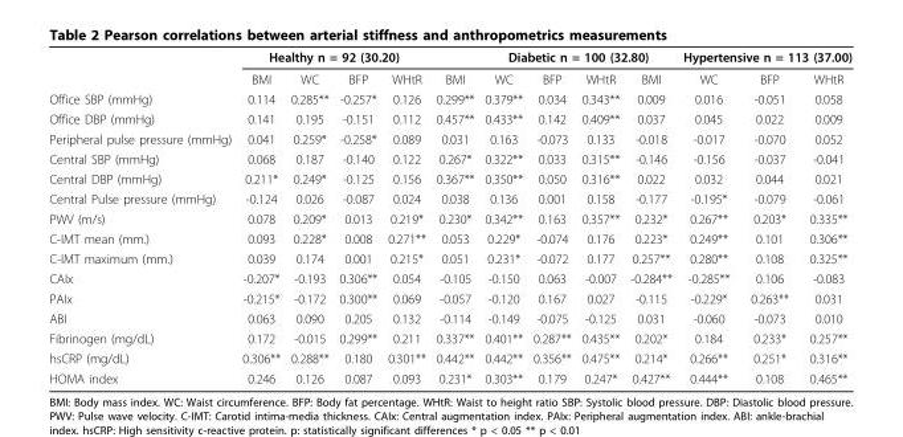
<table><thead><tr><td rowspan="2"></td><td colspan="4">Healthy n = 92 (30.20)</td><td rowspan="2">BMI</td><td colspan="4">Diabetic n = 100 (32.80)</td><td colspan="3">Hypertensive n = 113 (37.00)</td></tr><tr><td>BMI</td><td>WC</td><td>BFP</td><td>WHtR</td><td>WC</td><td>BFP</td><td>WHtR</td><td>BMI</td><td>WC</td><td>BFP</td><td>WHtR</td></tr></thead><tbody><tr><td>Office SBP (mmHg)</td><td>0.114</td><td>0.285**</td><td>-0.257*</td><td>0.126</td><td>0.299**</td><td>0.379**</td><td>0.034</td><td>0.343**</td><td>0.009</td><td>0.016</td><td>-0.051</td><td>0.058</td></tr><tr><td>Office DBP (mmHg)</td><td>0.141</td><td>0.195</td><td>-0.151</td><td>0.112</td><td>0.457**</td><td>0.433**</td><td>0.142</td><td>0.409**</td><td>0.037</td><td>0.045</td><td>0.022</td><td>0.009</td></tr><tr><td>Peripheral pulse pressure (mmHg)</td><td>0.041</td><td>0.259*</td><td>-0.258*</td><td>0.089</td><td>0.031</td><td>0.163</td><td>-0.073</td><td>0.133</td><td>-0.018</td><td>-0.017</td><td>-0.070</td><td>0.052</td></tr><tr><td>Central SBP (mmHg)</td><td>0.068</td><td>0.187</td><td>-0.140</td><td>0.122</td><td>0.267*</td><td>0.322**</td><td>0.033</td><td>0.315**</td><td>-0.146</td><td>-0.156</td><td>-0.037</td><td>-0.041</td></tr><tr><td>Central DBP (mmHg)</td><td>0.211*</td><td>0.249*</td><td>-0.125</td><td>0.156</td><td>0.367**</td><td>0.350**</td><td>0.050</td><td>0.316**</td><td>0.022</td><td>0.032</td><td>0.044</td><td>0.021</td></tr><tr><td>Central Pulse pressure (mmHg)</td><td>-0.124</td><td>0.026</td><td>-0.087</td><td>0.024</td><td>0.038</td><td>0.136</td><td>0.001</td><td>0.158</td><td>-0.177</td><td>-0.195*</td><td>-0.079</td><td>-0.061</td></tr><tr><td>PWV (m/s)</td><td>0.078</td><td>0.209*</td><td>0.013</td><td>0.219*</td><td>0.230*</td><td>0.342**</td><td>0.163</td><td>0.357**</td><td>0.232*</td><td>0.267**</td><td>0.203*</td><td>0.335**</td></tr><tr><td>C-IMT mean (mm.)</td><td>0.093</td><td>0.228*</td><td>0.008</td><td>0.271**</td><td>0.053</td><td>0.229*</td><td>-0.074</td><td>0.176</td><td>0.223*</td><td>0.249**</td><td>0.101</td><td>0.306**</td></tr><tr><td>C-IMT maximum (mm.)</td><td>0.039</td><td>0.174</td><td>0.001</td><td>0.215*</td><td>0.051</td><td>0.231*</td><td>-0.072</td><td>0.177</td><td>0.257**</td><td>0.280**</td><td>0.108</td><td>0.325**</td></tr><tr><td>CAIx</td><td>-0.207*</td><td>-0.193</td><td>0.306**</td><td>0.054</td><td>-0.105</td><td>-0.150</td><td>0.063</td><td>-0.007</td><td>-0.284**</td><td>-0.285**</td><td>0.106</td><td>-0.083</td></tr><tr><td>PAIx</td><td>-0.215*</td><td>-0.172</td><td>0.300**</td><td>0.069</td><td>-0.057</td><td>-0.120</td><td>0.167</td><td>0.027</td><td>-0.115</td><td>-0.229*</td><td>0.263**</td><td>0.031</td></tr><tr><td>ABI</td><td>0.063</td><td>0.090</td><td>0.205</td><td>0.132</td><td>-0.114</td><td>-0.149</td><td>-0.075</td><td>-0.125</td><td>0.031</td><td>-0.060</td><td>-0.073</td><td>0.010</td></tr><tr><td>Fibrinogen (mg/dL)</td><td>0.172</td><td>-0.015</td><td>0.299**</td><td>0.211</td><td>0.337**</td><td>0.401**</td><td>0.287**</td><td>0.435**</td><td>0.202*</td><td>0.184</td><td>0.233*</td><td>0.257**</td></tr><tr><td>hsCRP (mg/dL)</td><td>0.306**</td><td>0.288**</td><td>0.180</td><td>0.301**</td><td>0.442**</td><td>0.442**</td><td>0.356**</td><td>0.475**</td><td>0.214*</td><td>0.266**</td><td>0.251*</td><td>0.316**</td></tr><tr><td>HOMA index</td><td>0.246</td><td>0.126</td><td>0.087</td><td>0.093</td><td>0.231*</td><td>0.303**</td><td>0.179</td><td>0.247*</td><td>0.427**</td><td>0.444**</td><td>0.108</td><td>0.465**</td></tr></tbody></table>